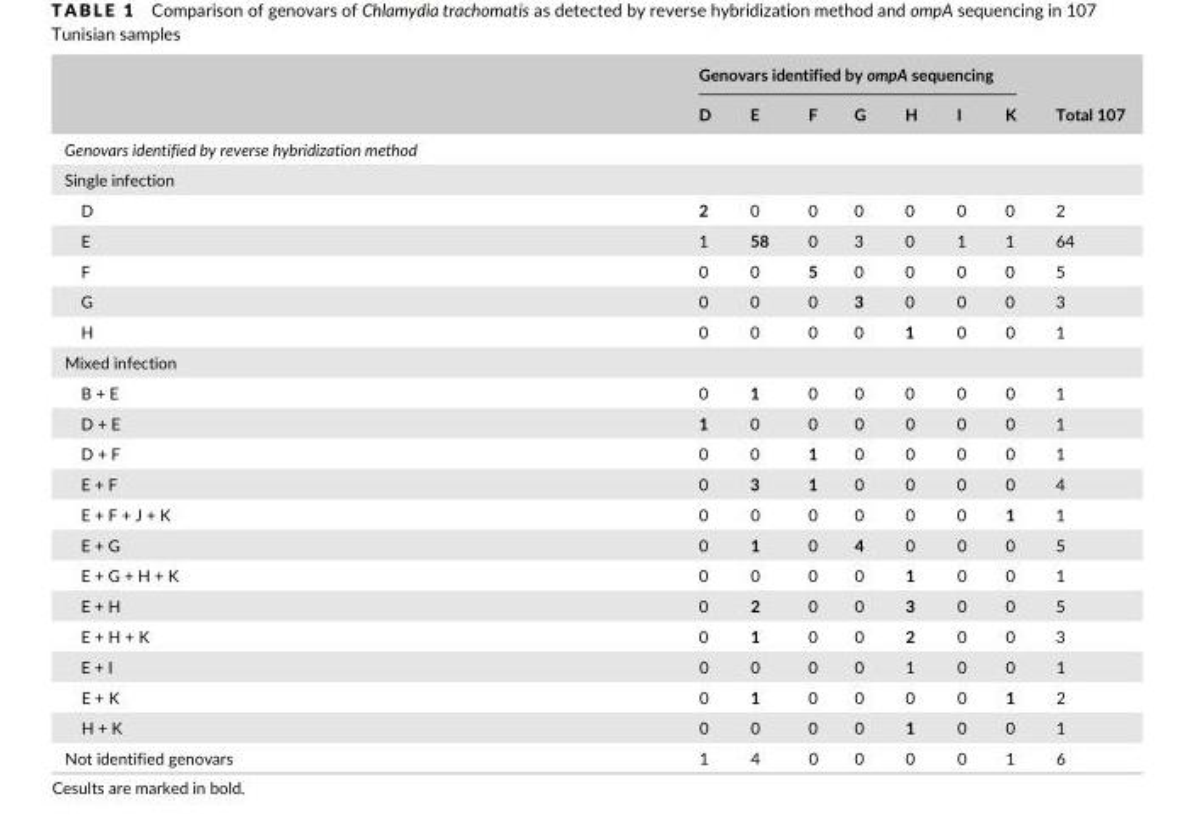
<table><thead><tr><td rowspan="2"></td><td colspan="7">Genovars identified by ompA sequencing</td><td rowspan="2">Total 107</td></tr><tr><td>D</td><td>E</td><td>F</td><td>G</td><td>H</td><td>I</td><td>K</td></tr></thead><tbody><tr><td colspan="9">Genovars identified by reverse hybridization method</td></tr><tr><td colspan="9">Single infection</td></tr><tr><td>D</td><td>2</td><td>0</td><td>0</td><td>0</td><td>0</td><td>0</td><td>0</td><td>2</td></tr><tr><td>E</td><td>1</td><td>58</td><td>0</td><td>3</td><td>0</td><td>1</td><td>1</td><td>64</td></tr><tr><td>F</td><td>0</td><td>0</td><td>5</td><td>0</td><td>0</td><td>0</td><td>0</td><td>5</td></tr><tr><td>G</td><td>0</td><td>0</td><td>0</td><td>3</td><td>0</td><td>0</td><td>0</td><td>3</td></tr><tr><td>H</td><td>0</td><td>0</td><td>0</td><td>0</td><td>1</td><td>0</td><td>0</td><td>1</td></tr><tr><td colspan="9">Mixed infection</td></tr><tr><td>B + E</td><td>0</td><td>1</td><td>0</td><td>0</td><td>0</td><td>0</td><td>0</td><td>1</td></tr><tr><td>D + E</td><td>1</td><td>0</td><td>0</td><td>0</td><td>0</td><td>0</td><td>0</td><td>1</td></tr><tr><td>D + F</td><td>0</td><td>0</td><td>1</td><td>0</td><td>0</td><td>0</td><td>0</td><td>1</td></tr><tr><td>E + F</td><td>0</td><td>3</td><td>1</td><td>0</td><td>0</td><td>0</td><td>0</td><td>4</td></tr><tr><td>E + F + J + K</td><td>0</td><td>0</td><td>0</td><td>0</td><td>0</td><td>0</td><td>1</td><td>1</td></tr><tr><td>E + G</td><td>0</td><td>1</td><td>0</td><td>4</td><td>0</td><td>0</td><td>0</td><td>5</td></tr><tr><td>E + G + H + K</td><td>0</td><td>0</td><td>0</td><td>0</td><td>1</td><td>0</td><td>0</td><td>1</td></tr><tr><td>E + H</td><td>0</td><td>2</td><td>0</td><td>0</td><td>3</td><td>0</td><td>0</td><td>5</td></tr><tr><td>E + H + K</td><td>0</td><td>1</td><td>0</td><td>0</td><td>2</td><td>0</td><td>0</td><td>3</td></tr><tr><td>E + I</td><td>0</td><td>0</td><td>0</td><td>0</td><td>1</td><td>0</td><td>0</td><td>1</td></tr><tr><td>E + K</td><td>0</td><td>1</td><td>0</td><td>0</td><td>0</td><td>0</td><td>1</td><td>2</td></tr><tr><td>H + K</td><td>0</td><td>0</td><td>0</td><td>0</td><td>1</td><td>0</td><td>0</td><td>1</td></tr><tr><td>Not identified genovars</td><td>1</td><td>4</td><td>0</td><td>0</td><td>0</td><td>0</td><td>1</td><td>6</td></tr></tbody></table>